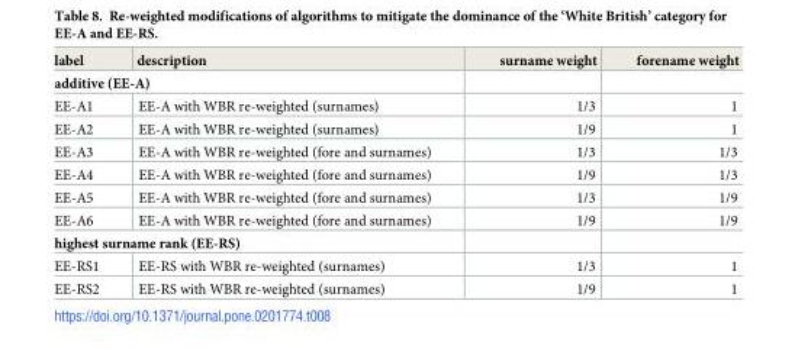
<table><thead><tr><td>label</td><td>description</td><td>surname weight</td><td>forename weight</td></tr></thead><tbody><tr><td colspan="4">additive (EE-A)</td></tr><tr><td>EE-A1</td><td>EE-A with WBR re-weighted (surnames)</td><td>1/3</td><td>1</td></tr><tr><td>EE-A2</td><td>EE-A with WBR re-weighted (surnames)</td><td>1/9</td><td>1</td></tr><tr><td>EE-A3</td><td>EE-A with WBR re-weighted (fore and surnames)</td><td>1/3</td><td>1/3</td></tr><tr><td>EE-A4</td><td>EE-A with WBR re-weighted (fore and surnames)</td><td>1/9</td><td>1/3</td></tr><tr><td>EE-A5</td><td>EE-A with WBR re-weighted (fore and surnames)</td><td>1/3</td><td>1/9</td></tr><tr><td>EE-A6</td><td>EE-A with WBR re-weighted (fore and surnames)</td><td>1/9</td><td>1/9</td></tr><tr><td colspan="4">highest surname rank (EE-RS)</td></tr><tr><td>EE-RS1</td><td>EE-RS with WBR re-weighted (surnames)</td><td>1/3</td><td>1</td></tr><tr><td>EE-RS2</td><td>EE-RS with WBR re-weighted (surnames)</td><td>1/9</td><td>1</td></tr></tbody></table>